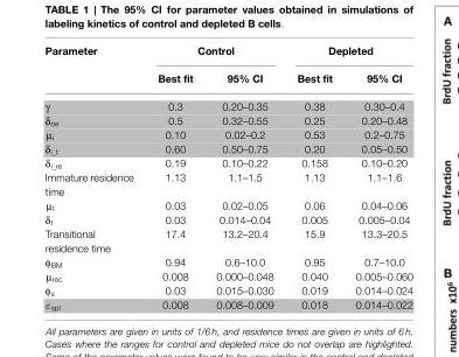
<table><thead><tr><td rowspan="2">Parameter</td><td colspan="2">Control</td><td colspan="2">Depleted</td></tr><tr><td>Best fit</td><td>95% CI</td><td>Best fit</td><td>95% CI</td></tr></thead><tbody><tr><td>γ</td><td>0.3</td><td>0.20–0.35</td><td>0.38</td><td>0.30–0.4</td></tr><tr><td>δ<sub>oe</sub></td><td>0.5</td><td>0.32–0.55</td><td>0.25</td><td>0.20–0.48</td></tr><tr><td>μ<sub>i</sub></td><td>0.10</td><td>0.02–0.2</td><td>0.53</td><td>0.2–0.75</td></tr><tr><td>δ<sub>i_t</sub></td><td>0.60</td><td>0.50–0.75</td><td>0.20</td><td>0.05–0.50</td></tr><tr><td>δ<sub>i_re</sub></td><td>0.19</td><td>0.10–0.22</td><td>0.158</td><td>0.10–0.20</td></tr><tr><td>Immature residence time</td><td>1.13</td><td>1.1–1.5</td><td>1.13</td><td>1.1–1.6</td></tr><tr><td>μ<sub>t</sub></td><td>0.03</td><td>0.02–0.05</td><td>0.06</td><td>0.04–0.06</td></tr><tr><td>δ<sub>t</sub></td><td>0.03</td><td>0.014–0.04</td><td>0.005</td><td>0.005–0.04</td></tr><tr><td>Transitional residence time</td><td>17.4</td><td>13.2–20.4</td><td>15.9</td><td>13.3–20.5</td></tr><tr><td>φ<sub>BM</sub></td><td>0.94</td><td>0.6–10.0</td><td>0.95</td><td>0.7–10.0</td></tr><tr><td>μ<sub>rec</sub></td><td>0.008</td><td>0.000–0.048</td><td>0.040</td><td>0.005–0.060</td></tr><tr><td>φ<sub>s</sub></td><td>0.03</td><td>0.015–0.030</td><td>0.019</td><td>0.014–0.024</td></tr><tr><td>ε<sub>spl</sub></td><td>0.008</td><td>0.008–0.009</td><td>0.018</td><td>0.014–0.022</td></tr></tbody></table>